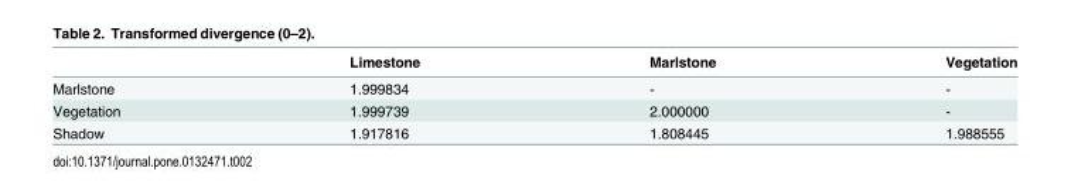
<table><thead><tr><td></td><td>Limestone</td><td>Marlstone</td><td>Vegetation</td></tr></thead><tbody><tr><td>Marlstone</td><td>1.999834</td><td>-</td><td>-</td></tr><tr><td>Vegetation</td><td>1.999739</td><td>2.000000</td><td>-</td></tr><tr><td>Shadow</td><td>1.917816</td><td>1.808445</td><td>1.988555</td></tr></tbody></table>